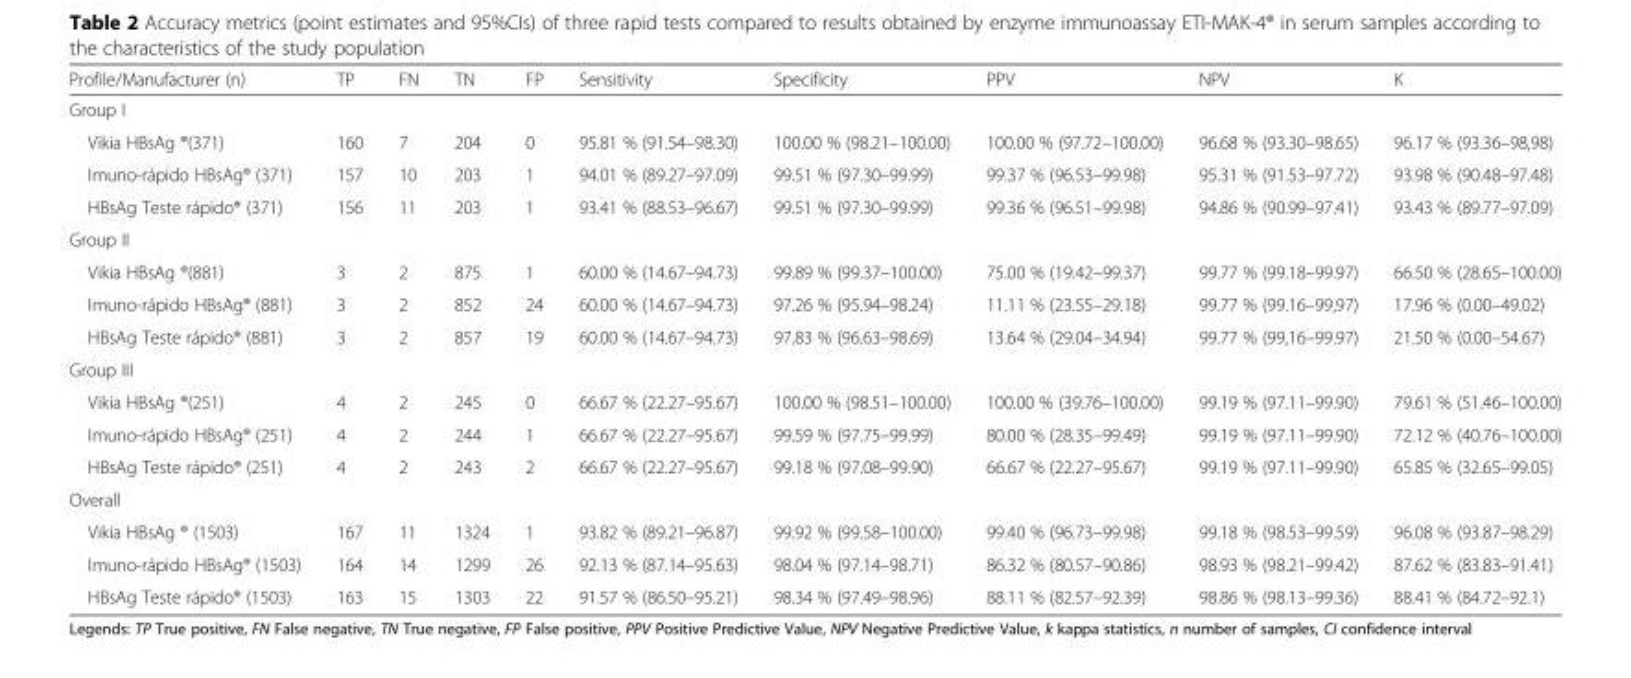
<table><thead><tr><td>Profile/Manufacturer (n)</td><td>TP</td><td>FN</td><td>TN</td><td>FP</td><td>Sensitivity</td><td>Specificity</td><td>PPV</td><td>NPV</td><td>K</td></tr></thead><tbody><tr><td colspan="10">Group I</td></tr><tr><td>Vikia HBsAg ®(371)</td><td>160</td><td>7</td><td>204</td><td>0</td><td>95.81 % (91.54–98.30)</td><td>100.00 % (98.21–100.00)</td><td>100.00 % (97.72–100.00)</td><td>96.68 % (93.30–98.65)</td><td>96.17 % (93.36–98,98)</td></tr><tr><td>Imuno-rápido HBsAg® (371)</td><td>157</td><td>10</td><td>203</td><td>1</td><td>94.01 % (89.27–97.09)</td><td>99.51 % (97.30–99.99)</td><td>99.37 % (96.53–99.98)</td><td>95.31 % (91.53–97.72)</td><td>93.98 % (90.48–97.48)</td></tr><tr><td>HBsAg Teste rápido® (371)</td><td>156</td><td>11</td><td>203</td><td>1</td><td>93.41 % (88.53–96.67)</td><td>99.51 % (97.30–99.99)</td><td>99.36 % (96.51–99.98)</td><td>94.86 % (90.99–97.41)</td><td>93.43 % (89.77–97.09)</td></tr><tr><td colspan="10">Group II</td></tr><tr><td>Vikia HBsAg ®(881)</td><td>3</td><td>2</td><td>875</td><td>1</td><td>60.00 % (14.67–94.73)</td><td>99.89 % (99.37–100.00)</td><td>75.00 % (19.42–99.37)</td><td>99.77 % (99.18–99.97)</td><td>66.50 % (28.65–100.00)</td></tr><tr><td>Imuno-rápido HBsAg® (881)</td><td>3</td><td>2</td><td>852</td><td>24</td><td>60.00 % (14.67–94.73)</td><td>97.26 % (95.94–98.24)</td><td>11.11 % (23.55–29.18)</td><td>99.77 % (99.16–99,97)</td><td>17.96 % (0.00–49.02)</td></tr><tr><td>HBsAg Teste rápido® (881)</td><td>3</td><td>2</td><td>857</td><td>19</td><td>60.00 % (14.67–94.73)</td><td>97.83 % (96.63–98.69)</td><td>13.64 % (29.04–34.94)</td><td>99.77 % (99,16–99.97)</td><td>21.50 % (0.00–54.67)</td></tr><tr><td colspan="10">Group III</td></tr><tr><td>Vikia HBsAg ®(251)</td><td>4</td><td>2</td><td>245</td><td>0</td><td>66.67 % (22.27–95.67)</td><td>100.00 % (98.51–100.00)</td><td>100.00 % (39.76–100.00)</td><td>99.19 % (97.11–99.90)</td><td>79.61 % (51.46–100.00)</td></tr><tr><td>Imuno-rápido HBsAg® (251)</td><td>4</td><td>2</td><td>244</td><td>1</td><td>66.67 % (22.27–95.67)</td><td>99.59 % (97.75–99.99)</td><td>80.00 % (28.35–99.49)</td><td>99.19 % (97.11–99.90)</td><td>72.12 % (40.76–100.00)</td></tr><tr><td>HBsAg Teste rápido® (251)</td><td>4</td><td>2</td><td>243</td><td>2</td><td>66.67 % (22.27–95.67)</td><td>99.18 % (97.08–99.90)</td><td>66.67 % (22.27–95.67)</td><td>99.19 % (97.11–99.90)</td><td>65.85 % (32.65–99.05)</td></tr><tr><td colspan="10">Overall</td></tr><tr><td>Vikia HBsAg ® (1503)</td><td>167</td><td>11</td><td>1324</td><td>1</td><td>93.82 % (89.21–96.87)</td><td>99.92 % (99.58–100.00)</td><td>99.40 % (96.73–99.98)</td><td>99.18 % (98.53–99.59)</td><td>96.08 % (93.87–98.29)</td></tr><tr><td>Imuno-rápido HBsAg® (1503)</td><td>164</td><td>14</td><td>1299</td><td>26</td><td>92.13 % (87.14–95.63)</td><td>98.04 % (97.14–98.71)</td><td>86.32 % (80.57–90.86)</td><td>98.93 % (98.21–99.42)</td><td>87.62 % (83.83–91.41)</td></tr><tr><td>HBsAg Teste rápido® (1503)</td><td>163</td><td>15</td><td>1303</td><td>22</td><td>91.57 % (86.50–95.21)</td><td>98.34 % (97.49–98.96)</td><td>88.11 % (82.57–92.39)</td><td>98.86 % (98.13–99.36)</td><td>88.41 % (84.72–92.1)</td></tr></tbody></table>